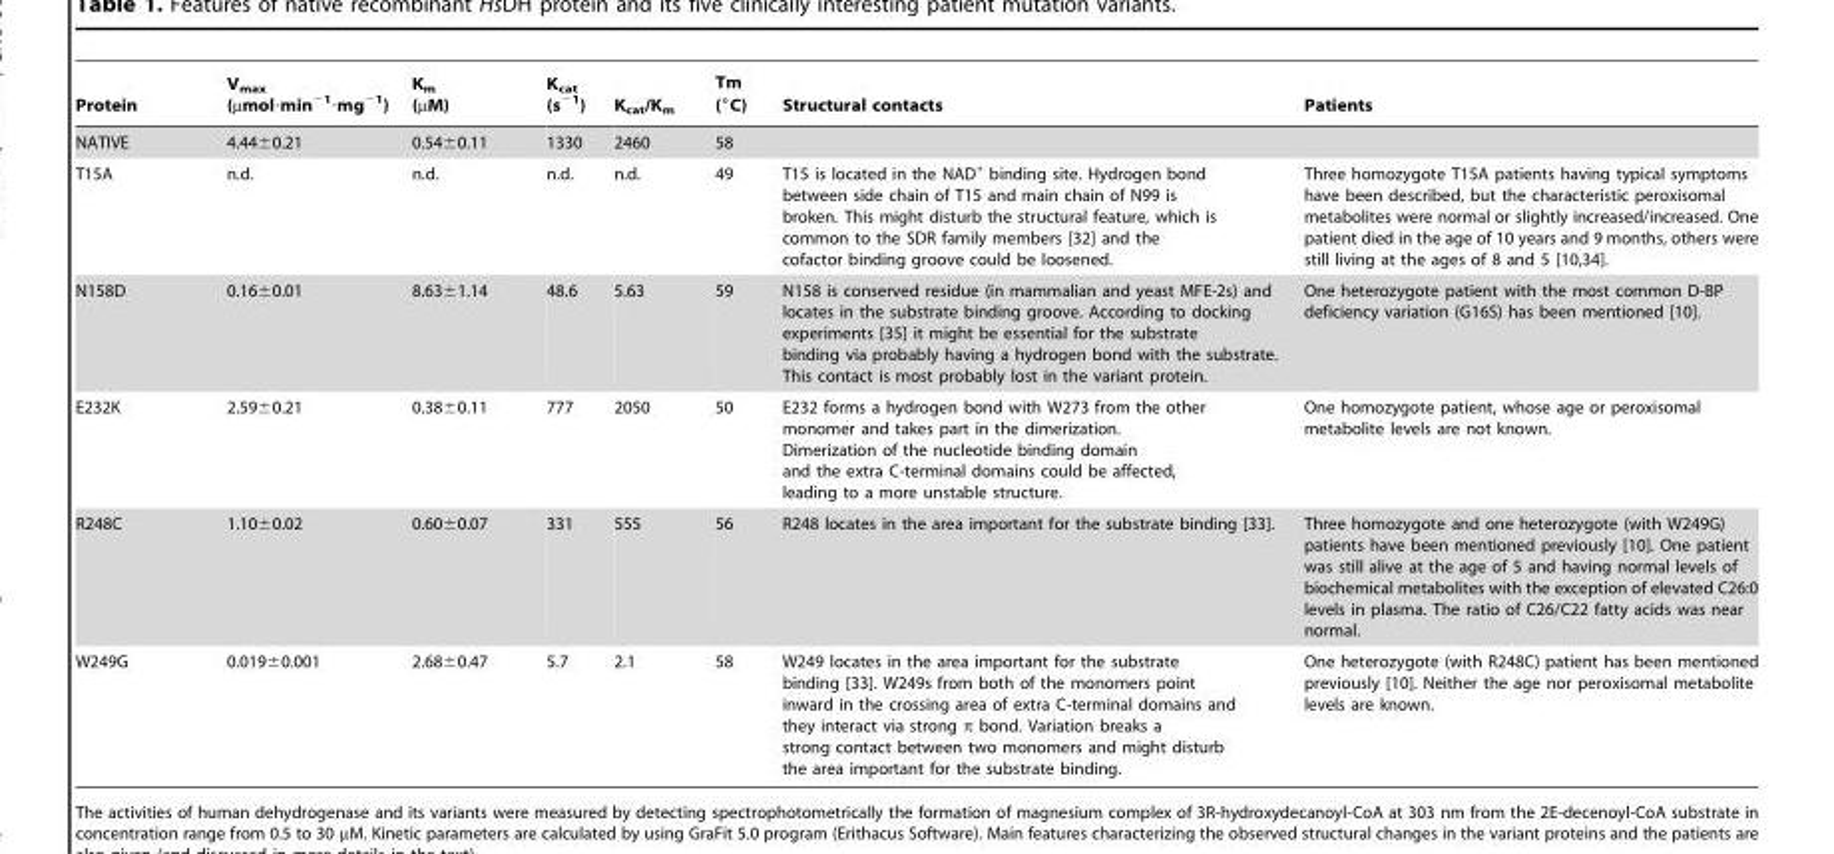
<table><thead><tr><td>Protein</td><td>V<sub>max</sub> (µmol·min<sup>−1</sup>·mg<sup>−1</sup>)</td><td>K<sub>m</sub> (µM)</td><td>K<sub>cat</sub> (s<sup>−1</sup>)</td><td>K<sub>cat</sub>/K<sub>m</sub></td><td>Tm (°C)</td><td>Structural contacts</td><td>Patients</td></tr></thead><tbody><tr><td>NATIVE</td><td>4.44±0.21</td><td>0.54±0.11</td><td>1330</td><td>2460</td><td>58</td><td></td><td></td></tr><tr><td>T15A</td><td>n.d.</td><td>n.d.</td><td>n.d.</td><td>n.d.</td><td>49</td><td>T15 is located in the NAD<sup>+</sup> binding site. Hydrogen bond between side chain of T15 and main chain of N99 is broken. This might disturb the structural feature, which is common to the SDR family members [32] and the cofactor binding groove could be loosened.</td><td>Three homozygote T15A patients having typical symptoms have been described, but the characteristic peroxisomal metabolites were normal or slightly increased/increased. One patient died in the age of 10 years and 9 months, others were still living at the ages of 8 and 5 [10,34].</td></tr><tr><td>N158D</td><td>0.16±0.01</td><td>8.63±1.14</td><td>48.6</td><td>5.63</td><td>59</td><td>N158 is conserved residue (in mammalian and yeast MFE-2s) and locates in the substrate binding groove. According to docking experiments [35] it might be essential for the substrate binding via probably having a hydrogen bond with the substrate. This contact is most probably lost in the variant protein.</td><td>One heterozygote patient with the most common D-BP deficiency variation (G16S) has been mentioned [10].</td></tr><tr><td>E232K</td><td>2.59±0.21</td><td>0.38±0.11</td><td>777</td><td>2050</td><td>50</td><td>E232 forms a hydrogen bond with W273 from the other monomer and takes part in the dimerization. Dimerization of the nucleotide binding domain and the extra C-terminal domains could be affected, leading to a more unstable structure.</td><td>One homozygote patient, whose age or peroxisomal metabolite levels are not known.</td></tr><tr><td>R248C</td><td>1.10±0.02</td><td>0.60±0.07</td><td>331</td><td>555</td><td>56</td><td>R248 locates in the area important for the substrate binding [33].</td><td>Three homozygote and one heterozygote (with W249G) patients have been mentioned previously [10]. One patient was still alive at the age of 5 and having normal levels of biochemical metabolites with the exception of elevated C26:0 levels in plasma. The ratio of C26/C22 fatty acids was near normal.</td></tr><tr><td>W249G</td><td>0.019±0.001</td><td>2.68±0.47</td><td>5.7</td><td>2.1</td><td>58</td><td>W249 locates in the area important for the substrate binding [33]. W249s from both of the monomers point inward in the crossing area of extra C-terminal domains and they interact via strong π bond. Variation breaks a strong contact between two monomers and might disturb the area important for the substrate binding.</td><td>One heterozygote (with R248C) patient has been mentioned previously [10]. Neither the age nor peroxisomal metabolite levels are known.</td></tr></tbody></table>